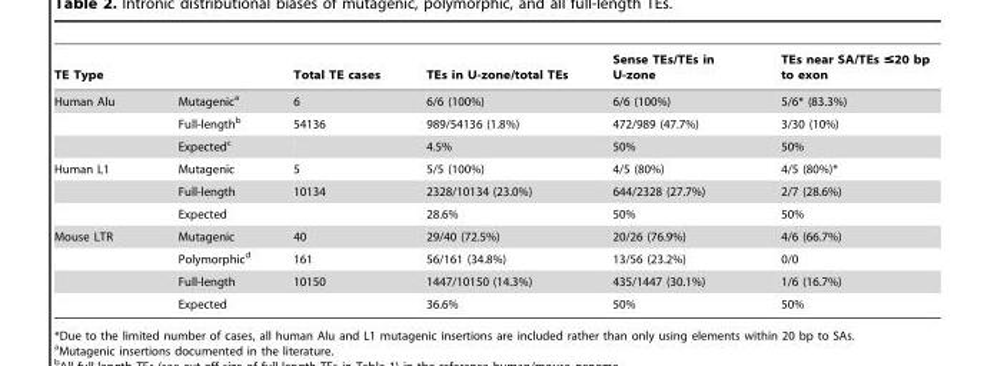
<table><thead><tr><td colspan="2">TE Type</td><td rowspan="2">Total TE cases 6</td><td rowspan="2">TEs in U-zone/total TEs 6/6 (100%)</td><td rowspan="2">Sense TEs/TEs in U-zone 6/6 (100%)</td><td rowspan="2">TEs near SA/TEs ≤20 bp to exon 5/6* (83.3%)</td></tr><tr><td>Human Alu</td><td>Mutagenic<sup>a</sup></td></tr></thead><tbody><tr><td></td><td>Full-length<sup>b</sup></td><td>54136</td><td>989/54136 (1.8%)</td><td>472/989 (47.7%)</td><td>3/30 (10%)</td></tr><tr><td></td><td>Expected<sup>c</sup></td><td></td><td>4.5%</td><td>50%</td><td>50%</td></tr><tr><td rowspan="3">Human L1</td><td>Mutagenic</td><td>5</td><td>5/5 (100%)</td><td>4/5 (80%)</td><td>4/5 (80%)*</td></tr><tr><td>Full-length</td><td>10134</td><td>2328/10134 (23.0%)</td><td>644/2328 (27.7%)</td><td>2/7 (28.6%)</td></tr><tr><td>Expected</td><td></td><td>28.6%</td><td>50%</td><td>50%</td></tr><tr><td rowspan="4">Mouse LTR</td><td>Mutagenic</td><td>40</td><td>29/40 (72.5%)</td><td>20/26 (76.9%)</td><td>4/6 (66.7%)</td></tr><tr><td>Polymorphic<sup>d</sup></td><td>161</td><td>56/161 (34.8%)</td><td>13/56 (23.2%)</td><td>0/0</td></tr><tr><td>Full-length</td><td>10150</td><td>1447/10150 (14.3%)</td><td>435/1447 (30.1%)</td><td>1/6 (16.7%)</td></tr><tr><td>Expected</td><td></td><td>36.6%</td><td>50%</td><td>50%</td></tr></tbody></table>